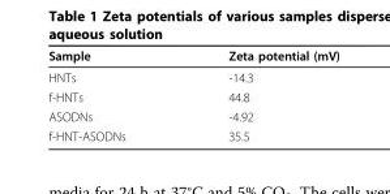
<table><thead><tr><td>Sample</td><td>Zeta potential (mV)</td></tr></thead><tbody><tr><td>HNTs</td><td>-14.3</td></tr><tr><td>f-HNTs</td><td>44.8</td></tr><tr><td>ASODNs</td><td>-4.92</td></tr><tr><td>f-HNT-ASODNs</td><td>35.5</td></tr></tbody></table>